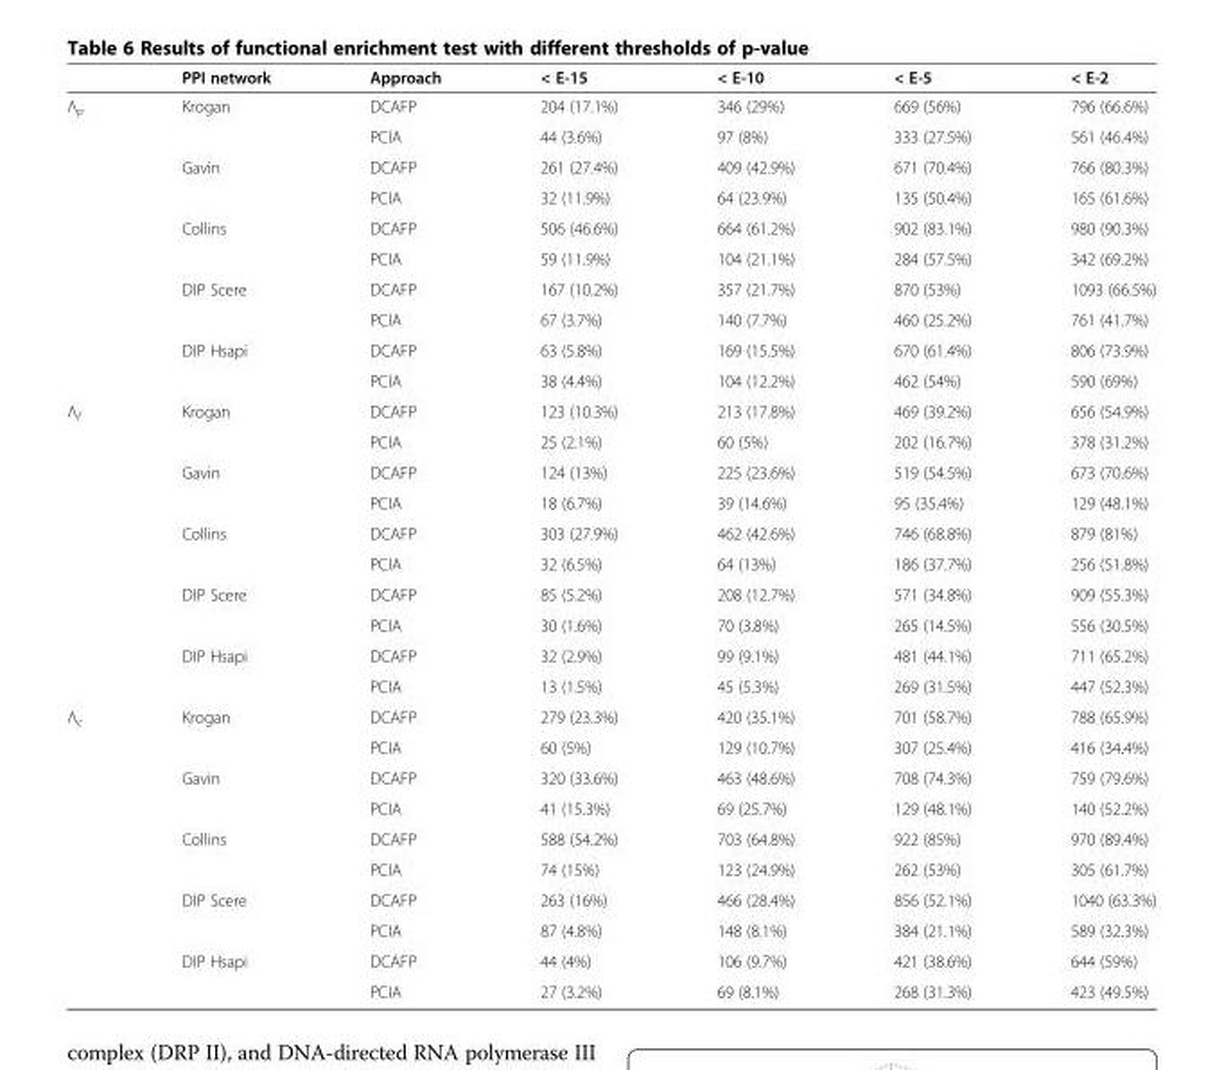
<table><thead><tr><td></td><td>PPI network</td><td>Approach</td><td>&lt; E-15</td><td>&lt; E-10</td><td>&lt; E-5</td><td>&lt; E-2</td></tr></thead><tbody><tr><td rowspan="10">Λ<sub>p</sub></td><td rowspan="2">Krogan</td><td>DCAFP</td><td>204 (17.1%)</td><td>346 (29%)</td><td>669 (56%)</td><td>796 (66.6%)</td></tr><tr><td>PCIA</td><td>44 (3.6%)</td><td>97 (8%)</td><td>333 (27.5%)</td><td>561 (46.4%)</td></tr><tr><td rowspan="2">Gavin</td><td>DCAFP</td><td>261 (27.4%)</td><td>409 (42.9%)</td><td>671 (70.4%)</td><td>766 (80.3%)</td></tr><tr><td>PCIA</td><td>32 (11.9%)</td><td>64 (23.9%)</td><td>135 (50.4%)</td><td>165 (61.6%)</td></tr><tr><td rowspan="2">Collins</td><td>DCAFP</td><td>506 (46.6%)</td><td>664 (61.2%)</td><td>902 (83.1%)</td><td>980 (90.3%)</td></tr><tr><td>PCIA</td><td>59 (11.9%)</td><td>104 (21.1%)</td><td>284 (57.5%)</td><td>342 (69.2%)</td></tr><tr><td rowspan="2">DIP Scere</td><td>DCAFP</td><td>167 (10.2%)</td><td>357 (21.7%)</td><td>870 (53%)</td><td>1093 (66.5%)</td></tr><tr><td>PCIA</td><td>67 (3.7%)</td><td>140 (7.7%)</td><td>460 (25.2%)</td><td>761 (41.7%)</td></tr><tr><td rowspan="2">DIP Hsapi</td><td>DCAFP</td><td>63 (5.8%)</td><td>169 (15.5%)</td><td>670 (61.4%)</td><td>806 (73.9%)</td></tr><tr><td>PCIA</td><td>38 (4.4%)</td><td>104 (12.2%)</td><td>462 (54%)</td><td>590 (69%)</td></tr><tr><td rowspan="10">Λ<sub>f</sub></td><td rowspan="2">Krogan</td><td>DCAFP</td><td>123 (10.3%)</td><td>213 (17.8%)</td><td>469 (39.2%)</td><td>656 (54.9%)</td></tr><tr><td>PCIA</td><td>25 (2.1%)</td><td>60 (5%)</td><td>202 (16.7%)</td><td>378 (31.2%)</td></tr><tr><td rowspan="2">Gavin</td><td>DCAFP</td><td>124 (13%)</td><td>225 (23.6%)</td><td>519 (54.5%)</td><td>673 (70.6%)</td></tr><tr><td>PCIA</td><td>18 (6.7%)</td><td>39 (14.6%)</td><td>95 (35.4%)</td><td>129 (48.1%)</td></tr><tr><td rowspan="2">Collins</td><td>DCAFP</td><td>303 (27.9%)</td><td>462 (42.6%)</td><td>746 (68.8%)</td><td>879 (81%)</td></tr><tr><td>PCIA</td><td>32 (6.5%)</td><td>64 (13%)</td><td>186 (37.7%)</td><td>256 (51.8%)</td></tr><tr><td rowspan="2">DIP Scere</td><td>DCAFP</td><td>85 (5.2%)</td><td>208 (12.7%)</td><td>571 (34.8%)</td><td>909 (55.3%)</td></tr><tr><td>PCIA</td><td>30 (1.6%)</td><td>70 (3.8%)</td><td>265 (14.5%)</td><td>556 (30.5%)</td></tr><tr><td rowspan="2">DIP Hsapi</td><td>DCAFP</td><td>32 (2.9%)</td><td>99 (9.1%)</td><td>481 (44.1%)</td><td>711 (65.2%)</td></tr><tr><td>PCIA</td><td>13 (1.5%)</td><td>45 (5.3%)</td><td>269 (31.5%)</td><td>447 (52.3%)</td></tr><tr><td rowspan="10">Λ<sub>c</sub></td><td rowspan="2">Krogan</td><td>DCAFP</td><td>279 (23.3%)</td><td>420 (35.1%)</td><td>701 (58.7%)</td><td>788 (65.9%)</td></tr><tr><td>PCIA</td><td>60 (5%)</td><td>129 (10.7%)</td><td>307 (25.4%)</td><td>416 (34.4%)</td></tr><tr><td rowspan="2">Gavin</td><td>DCAFP</td><td>320 (33.6%)</td><td>463 (48.6%)</td><td>708 (74.3%)</td><td>759 (79.6%)</td></tr><tr><td>PCIA</td><td>41 (15.3%)</td><td>69 (25.7%)</td><td>129 (48.1%)</td><td>140 (52.2%)</td></tr><tr><td rowspan="2">Collins</td><td>DCAFP</td><td>588 (54.2%)</td><td>703 (64.8%)</td><td>922 (85%)</td><td>970 (89.4%)</td></tr><tr><td>PCIA</td><td>74 (15%)</td><td>123 (24.9%)</td><td>262 (53%)</td><td>305 (61.7%)</td></tr><tr><td rowspan="2">DIP Scere</td><td>DCAFP</td><td>263 (16%)</td><td>466 (28.4%)</td><td>856 (52.1%)</td><td>1040 (63.3%)</td></tr><tr><td>PCIA</td><td>87 (4.8%)</td><td>148 (8.1%)</td><td>384 (21.1%)</td><td>589 (32.3%)</td></tr><tr><td rowspan="2">DIP Hsapi</td><td>DCAFP</td><td>44 (4%)</td><td>106 (9.7%)</td><td>421 (38.6%)</td><td>644 (59%)</td></tr><tr><td>PCIA</td><td>27 (3.2%)</td><td>69 (8.1%)</td><td>268 (31.3%)</td><td>423 (49.5%)</td></tr></tbody></table>